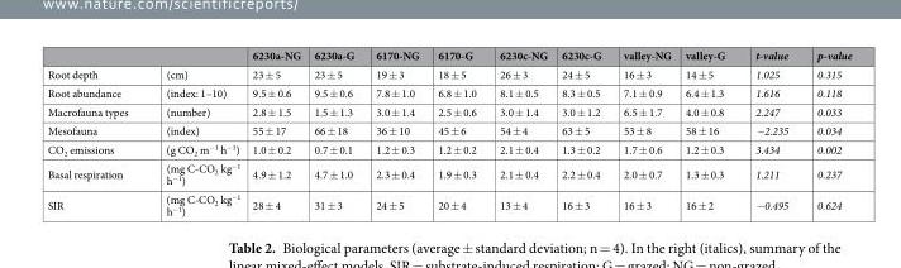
<table><thead><tr><td></td><td></td><td>6230a-NG</td><td>6230a-G</td><td>6170-NG</td><td>6170-G</td><td>6230c-NG</td><td>6230c-G</td><td>valley-NG</td><td>valley-G</td><td>t-value</td><td>p-value</td></tr></thead><tbody><tr><td>Root depth</td><td>(cm)</td><td>23 ± 5</td><td>23 ± 5</td><td>19 ± 3</td><td>18 ± 5</td><td>26 ± 3</td><td>24 ± 5</td><td>16 ± 3</td><td>14 ± 5</td><td>1.025</td><td>0.315</td></tr><tr><td>Root abundance</td><td>(index: 1–10)</td><td>9.5 ± 0.6</td><td>9.5 ± 0.6</td><td>7.8 ± 1.0</td><td>6.8 ± 1.0</td><td>8.1 ± 0.5</td><td>8.3 ± 0.5</td><td>7.1 ± 0.9</td><td>6.4 ± 1.3</td><td>1.616</td><td>0.118</td></tr><tr><td>Macrofauna types</td><td>(number)</td><td>2.8 ± 1.5</td><td>1.5 ± 1.3</td><td>3.0 ± 1.4</td><td>2.5 ± 0.6</td><td>3.0 ± 1.4</td><td>3.0 ± 1.2</td><td>6.5 ± 1.7</td><td>4.0 ± 0.8</td><td>2.247</td><td>0.033</td></tr><tr><td>Mesofauna</td><td>(index)</td><td>55 ± 17</td><td>66 ± 18</td><td>36 ± 10</td><td>45 ± 6</td><td>54 ± 4</td><td>63 ± 5</td><td>53 ± 8</td><td>58 ± 16</td><td>−2.235</td><td>0.034</td></tr><tr><td>CO<sub>2</sub> emissions</td><td>(g CO<sub>2</sub> m<sup>−1</sup> h<sup>−1</sup>)</td><td>1.0 ± 0.2</td><td>0.7 ± 0.1</td><td>1.2 ± 0.3</td><td>1.2 ± 0.2</td><td>2.1 ± 0.4</td><td>1.3 ± 0.2</td><td>1.7 ± 0.6</td><td>1.2 ± 0.3</td><td>3.434</td><td>0.002</td></tr><tr><td>Basal respiration</td><td>(mg C-CO<sub>2</sub> kg<sup>−1</sup> h<sup>−1</sup>)</td><td>4.9 ± 1.2</td><td>4.7 ± 1.0</td><td>2.3 ± 0.4</td><td>1.9 ± 0.3</td><td>2.1 ± 0.4</td><td>2.2 ± 0.4</td><td>2.0 ± 0.7</td><td>1.3 ± 0.3</td><td>1.211</td><td>0.237</td></tr><tr><td>SIR</td><td>(mg C-CO<sub>2</sub> kg<sup>−1</sup> h<sup>−1</sup>)</td><td>28 ± 4</td><td>31 ± 3</td><td>24 ± 5</td><td>20 ± 4</td><td>13 ± 4</td><td>16 ± 3</td><td>16 ± 3</td><td>16 ± 2</td><td>−0.495</td><td>0.624</td></tr></tbody></table>